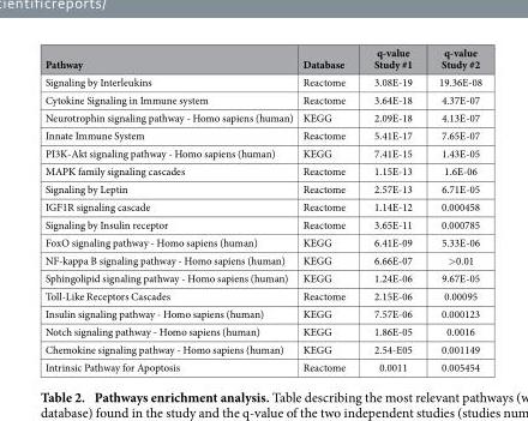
<table><thead><tr><td>Pathway</td><td>Database</td><td>q-value Study #1</td><td>q-value Study #2</td></tr></thead><tbody><tr><td>Signaling by Interleukins</td><td>Reactome</td><td>3.08E-19</td><td>19.36E-08</td></tr><tr><td>Cytokine Signaling in Immune system</td><td>Reactome</td><td>3.64E-18</td><td>4.37E-07</td></tr><tr><td>Neurotrophin signaling pathway - Homo sapiens (human)</td><td>KEGG</td><td>2.09E-18</td><td>4.13E-07</td></tr><tr><td>Innate Immune System</td><td>Reactome</td><td>5.41E-17</td><td>7.65E-07</td></tr><tr><td>PI3K-Akt signaling pathway - Homo sapiens (human)</td><td>KEGG</td><td>7.41E-15</td><td>1.43E-05</td></tr><tr><td>MAPK family signaling cascades</td><td>Reactome</td><td>1.15E-13</td><td>1.6E-06</td></tr><tr><td>Signaling by Leptin</td><td>Reactome</td><td>2.57E-13</td><td>6.71E-05</td></tr><tr><td>IGF1R signaling cascade</td><td>Reactome</td><td>1.14E-12</td><td>0.000458</td></tr><tr><td>Signaling by Insulin receptor</td><td>Reactome</td><td>3.65E-11</td><td>0.000785</td></tr><tr><td>FoxO signaling pathway - Homo sapiens (human)</td><td>KEGG</td><td>6.41E-09</td><td>5.33E-06</td></tr><tr><td>NF-kappa B signaling pathway - Homo sapiens (human)</td><td>KEGG</td><td>6.66E-07</td><td>&gt; 0.01</td></tr><tr><td>Sphingolipid signaling pathway - Homo sapiens (human)</td><td>KEGG</td><td>1.24E-06</td><td>9.67E-05</td></tr><tr><td>Toll-Like Receptors Cascades</td><td>Reactome</td><td>2.15E-06</td><td>0.00095</td></tr><tr><td>Insulin signaling pathway - Homo sapiens (human)</td><td>KEGG</td><td>7.57E-06</td><td>0.000123</td></tr><tr><td>Notch signaling pathway - Homo sapiens (human)</td><td>KEGG</td><td>1.86E-05</td><td>0.0016</td></tr><tr><td>Chemokine signaling pathway - Homo sapiens (human)</td><td>KEGG</td><td>2.54-E05</td><td>0.001149</td></tr><tr><td>Intrinsic Pathway for Apoptosis</td><td>Reactome</td><td>0.0011</td><td>0.005454</td></tr></tbody></table>